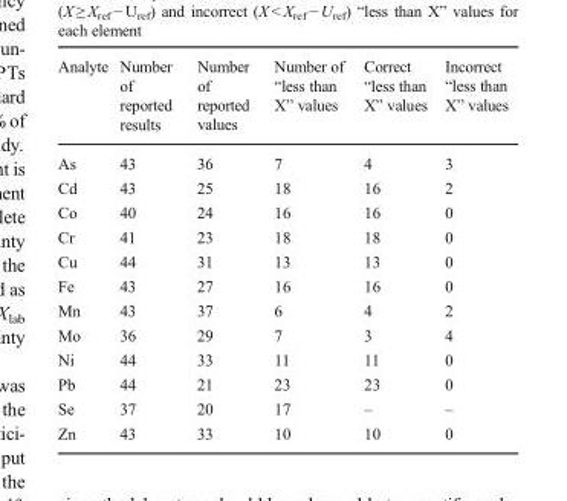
<table><thead><tr><td>Analyte</td><td>Number of reported results</td><td>Number of reported values</td><td>Number of “less than X” values</td><td>Correct “less than X” values</td><td>Incorrect “less than X” values</td></tr></thead><tbody><tr><td>As</td><td>43</td><td>36</td><td>7</td><td>4</td><td>3</td></tr><tr><td>Cd</td><td>43</td><td>25</td><td>18</td><td>16</td><td>2</td></tr><tr><td>Co</td><td>40</td><td>24</td><td>16</td><td>16</td><td>0</td></tr><tr><td>Cr</td><td>41</td><td>23</td><td>18</td><td>18</td><td>0</td></tr><tr><td>Cu</td><td>44</td><td>31</td><td>13</td><td>13</td><td>0</td></tr><tr><td>Fe</td><td>43</td><td>27</td><td>16</td><td>16</td><td>0</td></tr><tr><td>Mn</td><td>43</td><td>37</td><td>6</td><td>4</td><td>2</td></tr><tr><td>Mo</td><td>36</td><td>29</td><td>7</td><td>3</td><td>4</td></tr><tr><td>Ni</td><td>44</td><td>33</td><td>11</td><td>11</td><td>0</td></tr><tr><td>Pb</td><td>44</td><td>21</td><td>23</td><td>23</td><td>0</td></tr><tr><td>Se</td><td>37</td><td>20</td><td>17</td><td>–</td><td>–</td></tr><tr><td>Zn</td><td>43</td><td>33</td><td>10</td><td>10</td><td>0</td></tr></tbody></table>